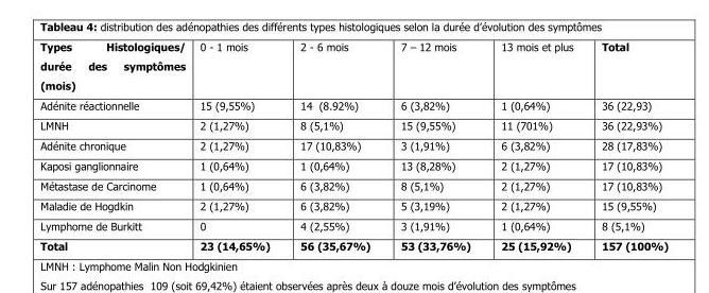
<table><thead><tr><td>Types Histologiques/ durée des symptômes (mois)</td><td>0 - 1 mois</td><td>2 - 6 mois</td><td>7 – 12 mois</td><td>13 mois et plus</td><td>Total</td></tr></thead><tbody><tr><td>Adénite réactionnelle</td><td>15 (9,55%)</td><td>14 (8.92%)</td><td>6 (3,82%)</td><td>1 (0,64%)</td><td>36 (22,93)</td></tr><tr><td>LMNH</td><td>2 (1,27%)</td><td>8 (5,1%)</td><td>15 (9,55%)</td><td>11 (701%)</td><td>36 (22,93%)</td></tr><tr><td>Adénite chronique</td><td>2 (1,27%)</td><td>17 (10,83%)</td><td>3 (1,91%)</td><td>6 (3,82%)</td><td>28 (17,83%)</td></tr><tr><td>Kaposi ganglionnaire</td><td>1 (0,64%)</td><td>1 (0,64%)</td><td>13 (8,28%)</td><td>2 (1,27%)</td><td>17 (10,83%)</td></tr><tr><td>Métastase de Carcinome</td><td>1 (0,64%)</td><td>6 (3,82%)</td><td>8 (5,1%)</td><td>2 (1,27%)</td><td>17 (10,83%)</td></tr><tr><td>Maladie de Hogdkin</td><td>2 (1,27%)</td><td>6 (3,82%)</td><td>5 (3,19%)</td><td>2 (1,27%)</td><td>15 (9,55%)</td></tr><tr><td>Lymphome de Burkitt</td><td>0</td><td>4 (2,55%)</td><td>3 (1,91%)</td><td>1 (0,64%)</td><td>8 (5,1%)</td></tr><tr><td>Total</td><td>23 (14,65%)</td><td>56 (35,67%)</td><td>53 (33,76%)</td><td>25 (15,92%)</td><td>157 (100%)</td></tr></tbody></table>